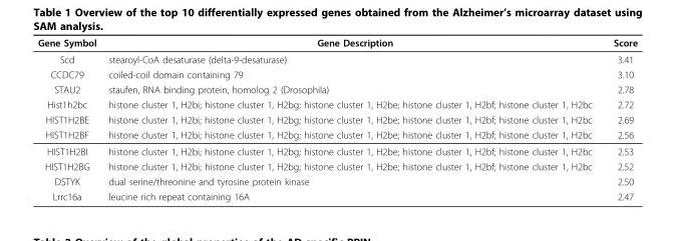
<table><thead><tr><td>Gene Symbol</td><td>Gene Description</td><td>Score</td></tr></thead><tbody><tr><td>Scd</td><td>stearoyl-CoA desaturase (delta-9-desaturase)</td><td>3.41</td></tr><tr><td>CCDC79</td><td>coiled-coil domain containing 79</td><td>3.10</td></tr><tr><td>STAU2</td><td>staufen, RNA binding protein, homolog 2 (Drosophila)</td><td>2.78</td></tr><tr><td>Hist1h2bc</td><td>histone cluster 1, H2bi; histone cluster 1, H2bg; histone cluster 1, H2be; histone cluster 1, H2bf; histone cluster 1, H2bc</td><td>2.72</td></tr><tr><td>HIST1H2BE</td><td>histone cluster 1, H2bi; histone cluster 1, H2bg; histone cluster 1, H2be; histone cluster 1, H2bf; histone cluster 1, H2bc</td><td>2.69</td></tr><tr><td>HIST1H2BF</td><td>histone cluster 1, H2bi; histone cluster 1, H2bg; histone cluster 1, H2be; histone cluster 1, H2bf; histone cluster 1, H2bc</td><td>2.56</td></tr><tr><td>HIST1H2BI</td><td>histone cluster 1, H2bi; histone cluster 1, H2bg; histone cluster 1, H2be; histone cluster 1, H2bf; histone cluster 1, H2bc</td><td>2.53</td></tr><tr><td>HIST1H2BG</td><td>histone cluster 1, H2bi; histone cluster 1, H2bg; histone cluster 1, H2be; histone cluster 1, H2bf; histone cluster 1, H2bc</td><td>2.52</td></tr><tr><td>DSTYK</td><td>dual serine/threonine and tyrosine protein kinase</td><td>2.50</td></tr><tr><td>Lrrc16a</td><td>leucine rich repeat containing 16A</td><td>2.47</td></tr></tbody></table>